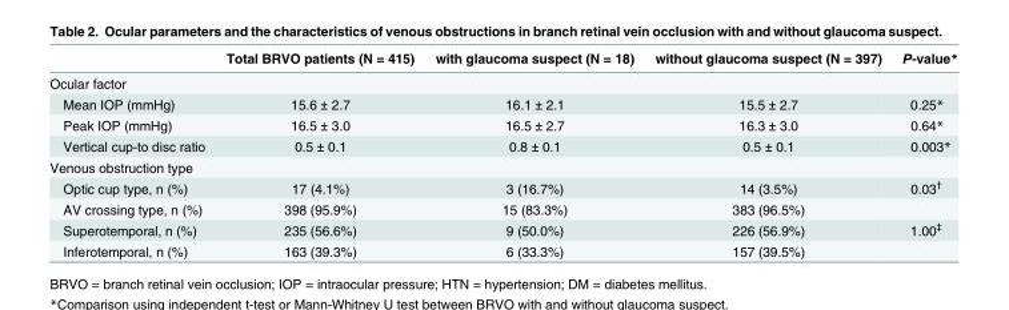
<table><thead><tr><td></td><td>Total BRVO patients (N = 415)</td><td>with glaucoma suspect (N = 18)</td><td>without glaucoma suspect (N = 397)</td><td>P-value*</td></tr></thead><tbody><tr><td colspan="5">Ocular factor</td></tr><tr><td>Mean IOP (mmHg)</td><td>15.6 ± 2.7</td><td>16.1 ± 2.1</td><td>15.5 ± 2.7</td><td>0.25*</td></tr><tr><td>Peak IOP (mmHg)</td><td>16.5 ± 3.0</td><td>16.5 ± 2.7</td><td>16.3 ± 3.0</td><td>0.64*</td></tr><tr><td>Vertical cup-to disc ratio</td><td>0.5 ± 0.1</td><td>0.8 ± 0.1</td><td>0.5 ± 0.1</td><td>0.003*</td></tr><tr><td colspan="5">Venous obstruction type</td></tr><tr><td>Optic cup type, n (%)</td><td>17 (4.1%)</td><td>3 (16.7%)</td><td>14 (3.5%)</td><td>0.03<sup>†</sup></td></tr><tr><td>AV crossing type, n (%)</td><td>398 (95.9%)</td><td>15 (83.3%)</td><td>383 (96.5%)</td><td></td></tr><tr><td>Superotemporal, n (%)</td><td>235 (56.6%)</td><td>9 (50.0%)</td><td>226 (56.9%)</td><td>1.00<sup>‡</sup></td></tr><tr><td>Inferotemporal, n (%)</td><td>163 (39.3%)</td><td>6 (33.3%)</td><td>157 (39.5%)</td><td></td></tr></tbody></table>